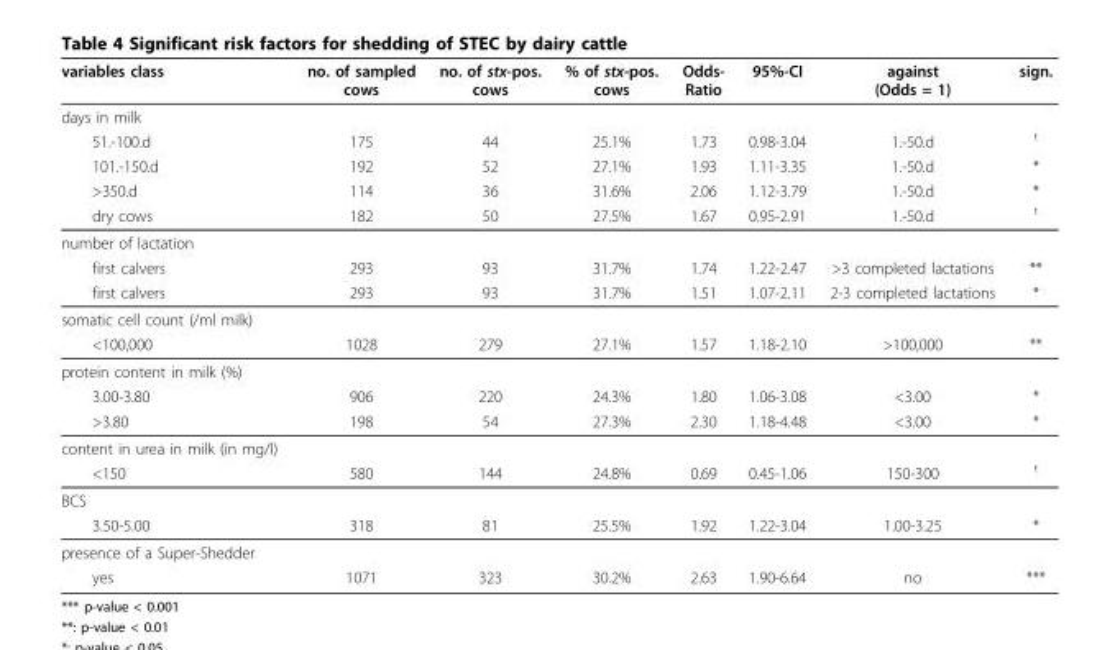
<table><thead><tr><td>variables class</td><td>no. of sampled cows</td><td>no. of stx-pos. cows</td><td>% of stx-pos. cows</td><td>Odds- Ratio</td><td>95%-CI</td><td>against (Odds = 1)</td><td>sign.</td></tr></thead><tbody><tr><td colspan="8">days in milk</td></tr><tr><td>51.-100.d</td><td>175</td><td>44</td><td>25.1%</td><td>1.73</td><td>0.98-3.04</td><td>1.-50.d</td><td><sup>t</sup></td></tr><tr><td>101.-150.d</td><td>192</td><td>52</td><td>27.1%</td><td>1.93</td><td>1.11-3.35</td><td>1.-50.d</td><td>*</td></tr><tr><td>&gt;350.d</td><td>114</td><td>36</td><td>31.6%</td><td>2.06</td><td>1.12-3.79</td><td>1.-50.d</td><td>*</td></tr><tr><td>dry cows</td><td>182</td><td>50</td><td>27.5%</td><td>1.67</td><td>0.95-2.91</td><td>1.-50.d</td><td><sup>t</sup></td></tr><tr><td colspan="8">number of lactation</td></tr><tr><td>first calvers</td><td>293</td><td>93</td><td>31.7%</td><td>1.74</td><td>1.22-2.47</td><td>&gt;3 completed lactations</td><td>**</td></tr><tr><td>first calvers</td><td>293</td><td>93</td><td>31.7%</td><td>1.51</td><td>1.07-2.11</td><td>2-3 completed lactations</td><td>*</td></tr><tr><td colspan="8">somatic cell count (/ml milk)</td></tr><tr><td>&lt;100,000</td><td>1028</td><td>279</td><td>27.1%</td><td>1.57</td><td>1.18-2.10</td><td>&gt;100,000</td><td>**</td></tr><tr><td colspan="8">protein content in milk (%)</td></tr><tr><td>3.00-3.80</td><td>906</td><td>220</td><td>24.3%</td><td>1.80</td><td>1.06-3.08</td><td>&lt;3.00</td><td>*</td></tr><tr><td>&gt;3.80</td><td>198</td><td>54</td><td>27.3%</td><td>2.30</td><td>1.18-4.48</td><td>&lt;3.00</td><td>*</td></tr><tr><td colspan="8">content in urea in milk (in mg/l)</td></tr><tr><td>&lt;150</td><td>580</td><td>144</td><td>24.8%</td><td>0.69</td><td>0.45-1.06</td><td>150-300</td><td><sup>t</sup></td></tr><tr><td colspan="8">BCS</td></tr><tr><td>3.50-5.00</td><td>318</td><td>81</td><td>25.5%</td><td>1.92</td><td>1.22-3.04</td><td>1.00-3.25</td><td>*</td></tr><tr><td colspan="8">presence of a Super-Shedder</td></tr><tr><td>yes</td><td>1071</td><td>323</td><td>30.2%</td><td>2.63</td><td>1.90-6.64</td><td>no</td><td>***</td></tr></tbody></table>